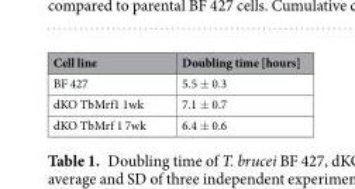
<table><thead><tr><td>Cell line</td><td>Doubling time [hours]</td></tr></thead><tbody><tr><td>BF 427</td><td>5.5 ± 0.3</td></tr><tr><td>dKO TbMrf1 1wk</td><td>7.1 ± 0.7</td></tr><tr><td>dKO TbMrf 1 7wk</td><td>6.4 ± 0.6</td></tr></tbody></table>